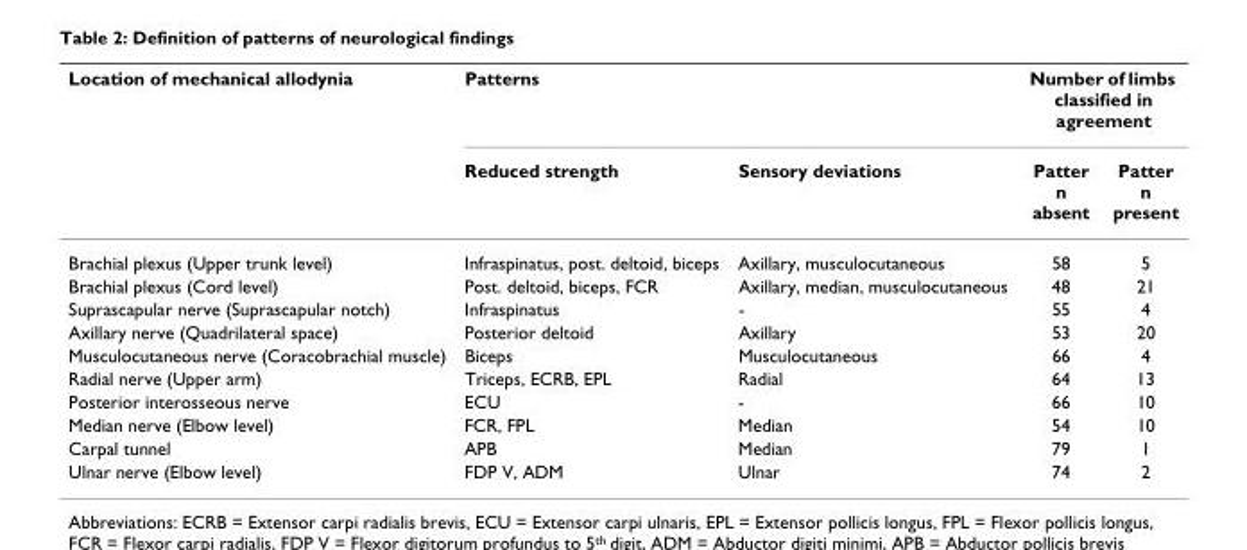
<table><thead><tr><td rowspan="2">Location of mechanical allodynia</td><td colspan="2">Patterns</td><td colspan="2">Number of limbs classified in agreement</td></tr><tr><td>Reduced strength</td><td>Sensory deviations</td><td>Patter n absent</td><td>Patter n present</td></tr></thead><tbody><tr><td>Brachial plexus (Upper trunk level)</td><td>Infraspinatus, post. deltoid, biceps</td><td>Axillary, musculocutaneous</td><td>58</td><td>5</td></tr><tr><td>Brachial plexus (Cord level)</td><td>Post. deltoid, biceps, FCR</td><td>Axillary, median, musculocutaneous</td><td>48</td><td>21</td></tr><tr><td>Suprascapular nerve (Suprascapular notch)</td><td>Infraspinatus</td><td>-</td><td>55</td><td>4</td></tr><tr><td>Axillary nerve (Quadrilateral space)</td><td>Posterior deltoid</td><td>Axillary</td><td>53</td><td>20</td></tr><tr><td>Musculocutaneous nerve (Coracobrachial muscle)</td><td>Biceps</td><td>Musculocutaneous</td><td>66</td><td>4</td></tr><tr><td>Radial nerve (Upper arm)</td><td>Triceps, ECRB, EPL</td><td>Radial</td><td>64</td><td>13</td></tr><tr><td>Posterior interosseous nerve</td><td>ECU</td><td>-</td><td>66</td><td>10</td></tr><tr><td>Median nerve (Elbow level)</td><td>FCR, FPL</td><td>Median</td><td>54</td><td>10</td></tr><tr><td>Carpal tunnel</td><td>APB</td><td>Median</td><td>79</td><td>1</td></tr><tr><td>Ulnar nerve (Elbow level)</td><td>FDP V, ADM</td><td>Ulnar</td><td>74</td><td>2</td></tr></tbody></table>